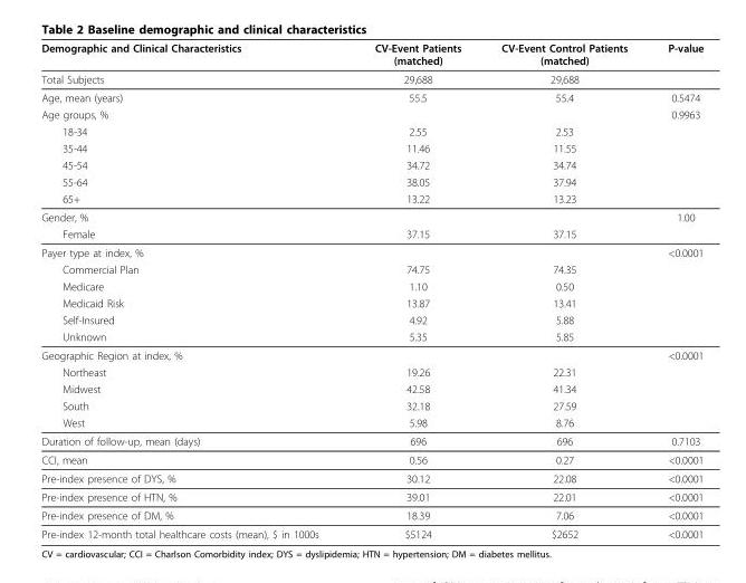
<table><thead><tr><td>Demographic and Clinical Characteristics</td><td>CV-Event Patients (matched)</td><td>CV-Event Control Patients (matched)</td><td>P-value</td></tr></thead><tbody><tr><td>Total Subjects</td><td>29,688</td><td>29,688</td><td></td></tr><tr><td>Age, mean (years)</td><td>55.5</td><td>55.4</td><td>0.5474</td></tr><tr><td>Age groups, %</td><td></td><td></td><td>0.9963</td></tr><tr><td>18-34</td><td>2.55</td><td>2.53</td><td></td></tr><tr><td>35-44</td><td>11.46</td><td>11.55</td><td></td></tr><tr><td>45-54</td><td>34.72</td><td>34.74</td><td></td></tr><tr><td>55-64</td><td>38.05</td><td>37.94</td><td></td></tr><tr><td>65+</td><td>13.22</td><td>13.23</td><td></td></tr><tr><td>Gender, %</td><td></td><td></td><td>1.00</td></tr><tr><td>Female</td><td>37.15</td><td>37.15</td><td></td></tr><tr><td>Payer type at index, %</td><td></td><td></td><td>&lt;0.0001</td></tr><tr><td>Commercial Plan</td><td>74.75</td><td>74.35</td><td></td></tr><tr><td>Medicare</td><td>1.10</td><td>0.50</td><td></td></tr><tr><td>Medicaid Risk</td><td>13.87</td><td>13.41</td><td></td></tr><tr><td>Self-Insured</td><td>4.92</td><td>5.88</td><td></td></tr><tr><td>Unknown</td><td>5.35</td><td>5.85</td><td></td></tr><tr><td>Geographic Region at index, %</td><td></td><td></td><td>&lt;0.0001</td></tr><tr><td>Northeast</td><td>19.26</td><td>22.31</td><td></td></tr><tr><td>Midwest</td><td>42.58</td><td>41.34</td><td></td></tr><tr><td>South</td><td>32.18</td><td>27.59</td><td></td></tr><tr><td>West</td><td>5.98</td><td>8.76</td><td></td></tr><tr><td>Duration of follow-up, mean (days)</td><td>696</td><td>696</td><td>0.7103</td></tr><tr><td>CCI, mean</td><td>0.56</td><td>0.27</td><td>&lt;0.0001</td></tr><tr><td>Pre-index presence of DYS, %</td><td>30.12</td><td>22.08</td><td>&lt;0.0001</td></tr><tr><td>Pre-index presence of HTN, %</td><td>39.01</td><td>22.01</td><td>&lt;0.0001</td></tr><tr><td>Pre-index presence of DM, %</td><td>18.39</td><td>7.06</td><td>&lt;0.0001</td></tr><tr><td>Pre-index 12-month total healthcare costs (mean), $ in 1000s</td><td>$5124</td><td>$2652</td><td>&lt;0.0001</td></tr></tbody></table>